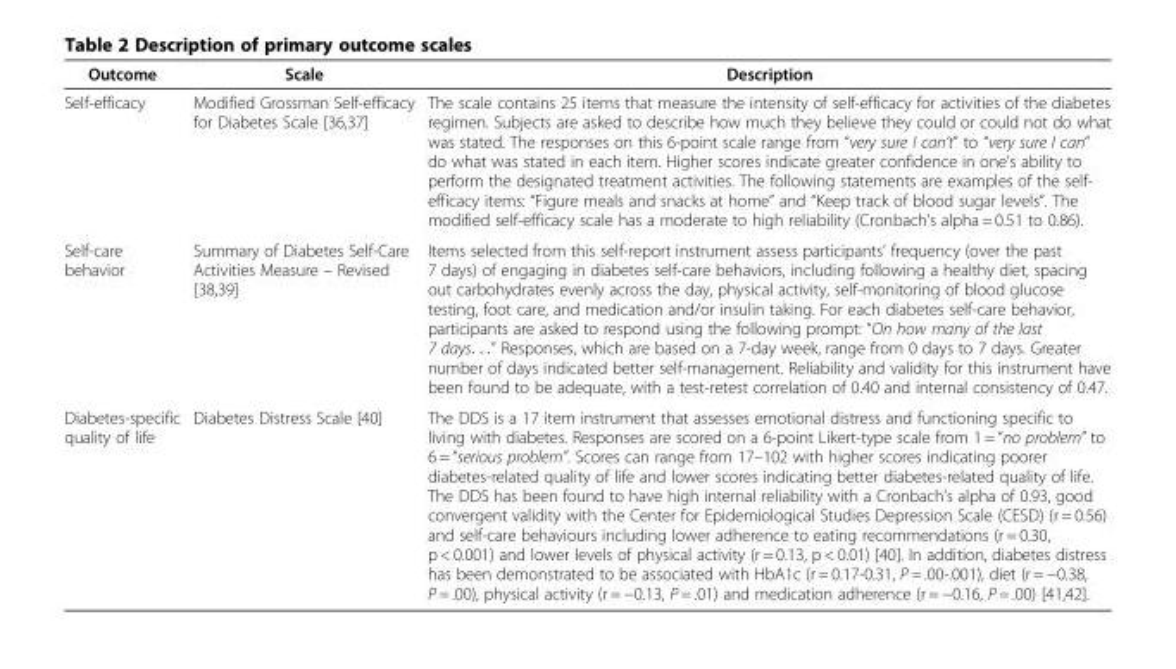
<table><thead><tr><td>Outcome</td><td>Scale</td><td>Description</td></tr></thead><tbody><tr><td>Self-efficacy</td><td>Modified Grossman Self-efficacy for Diabetes Scale [36,37]</td><td>The scale contains 25 items that measure the intensity of self-efficacy for activities of the diabetes regimen. Subjects are asked to describe how much they believe they could or could not do what was stated. The responses on this 6-point scale range from “very sure I can’t” to “very sure I can” do what was stated in each item. Higher scores indicate greater confidence in one’s ability to perform the designated treatment activities. The following statements are examples of the self- efficacy items: “Figure meals and snacks at home” and “Keep track of blood sugar levels”. The modified self-efficacy scale has a moderate to high reliability (Cronbach’s alpha = 0.51 to 0.86).</td></tr><tr><td>Self-care behavior</td><td>Summary of Diabetes Self-Care Activities Measure – Revised [38,39]</td><td>Items selected from this self-report instrument assess participants’ frequency (over the past 7 days) of engaging in diabetes self-care behaviors, including following a healthy diet, spacing out carbohydrates evenly across the day, physical activity, self-monitoring of blood glucose testing, foot care, and medication and/or insulin taking. For each diabetes self-care behavior, participants are asked to respond using the following prompt: “On how many of the last 7 days. . .” Responses, which are based on a 7-day week, range from 0 days to 7 days. Greater number of days indicated better self-management. Reliability and validity for this instrument have been found to be adequate, with a test-retest correlation of 0.40 and internal consistency of 0.47.</td></tr><tr><td>Diabetes-specific quality of life</td><td>Diabetes Distress Scale [40]</td><td>The DDS is a 17 item instrument that assesses emotional distress and functioning specific to living with diabetes. Responses are scored on a 6-point Likert-type scale from 1 = “no problem” to 6 = “serious problem”. Scores can range from 17–102 with higher scores indicating poorer diabetes-related quality of life and lower scores indicating better diabetes-related quality of life. The DDS has been found to have high internal reliability with a Cronbach’s alpha of 0.93, good convergent validity with the Center for Epidemiological Studies Depression Scale (CESD) (r = 0.56) and self-care behaviours including lower adherence to eating recommendations (r = 0.30, p &lt; 0.001) and lower levels of physical activity (r = 0.13, p &lt; 0.01) [40]. In addition, diabetes distress has been demonstrated to be associated with HbA1c (r = 0.17-0.31, P = .00-.001), diet (r = −0.38, P = .00), physical activity (r = −0.13, P = .01) and medication adherence (r = −0.16, P = .00) [41,42].</td></tr></tbody></table>